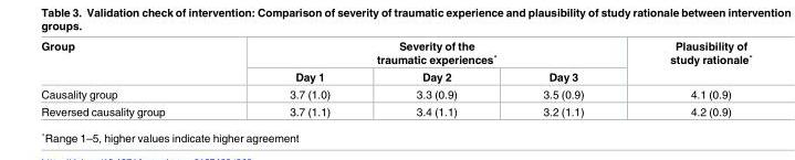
<table><thead><tr><td rowspan="2">Group</td><td colspan="3">Severity of the traumatic experiences˚</td><td rowspan="2">Plausibility of study rationale˚</td></tr><tr><td>Day 1</td><td>Day 2</td><td>Day 3</td></tr></thead><tbody><tr><td>Causality group</td><td>3.7 (1.0)</td><td>3.3 (0.9)</td><td>3.5 (0.9)</td><td>4.1 (0.9)</td></tr><tr><td>Reversed causality group</td><td>3.7 (1.1)</td><td>3.4 (1.1)</td><td>3.2 (1.1)</td><td>4.2 (0.9)</td></tr></tbody></table>